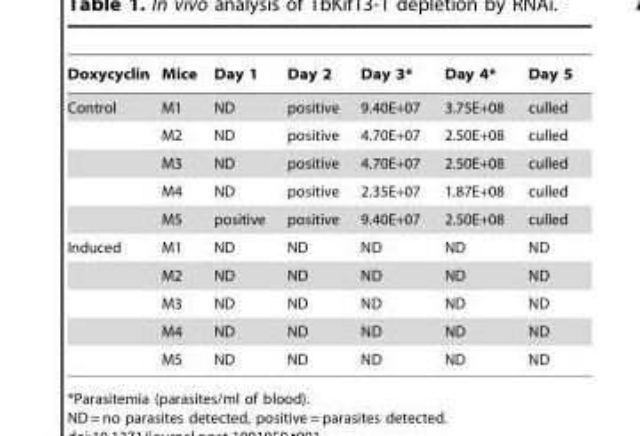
<table><thead><tr><td>Doxycyclin</td><td>Mice</td><td>Day 1</td><td>Day 2</td><td>Day 3*</td><td>Day 4*</td><td>Day 5</td></tr></thead><tbody><tr><td rowspan="5">Control</td><td>M1</td><td>ND</td><td>positive</td><td>9.40E+07</td><td>3.75E+08</td><td>culled</td></tr><tr><td>M2</td><td>ND</td><td>positive</td><td>4.70E+07</td><td>2.50E+08</td><td>culled</td></tr><tr><td>M3</td><td>ND</td><td>positive</td><td>4.70E+07</td><td>2.50E+08</td><td>culled</td></tr><tr><td>M4</td><td>ND</td><td>positive</td><td>2.35E+07</td><td>1.87E+08</td><td>culled</td></tr><tr><td>M5</td><td>positive</td><td>positive</td><td>9.40E+07</td><td>2.50E+08</td><td>culled</td></tr><tr><td rowspan="5">Induced</td><td>M1</td><td>ND</td><td>ND</td><td>ND</td><td>ND</td><td>ND</td></tr><tr><td>M2</td><td>ND</td><td>ND</td><td>ND</td><td>ND</td><td>ND</td></tr><tr><td>M3</td><td>ND</td><td>ND</td><td>ND</td><td>ND</td><td>ND</td></tr><tr><td>M4</td><td>ND</td><td>ND</td><td>ND</td><td>ND</td><td>ND</td></tr><tr><td>M5</td><td>ND</td><td>ND</td><td>ND</td><td>ND</td><td>ND</td></tr></tbody></table>